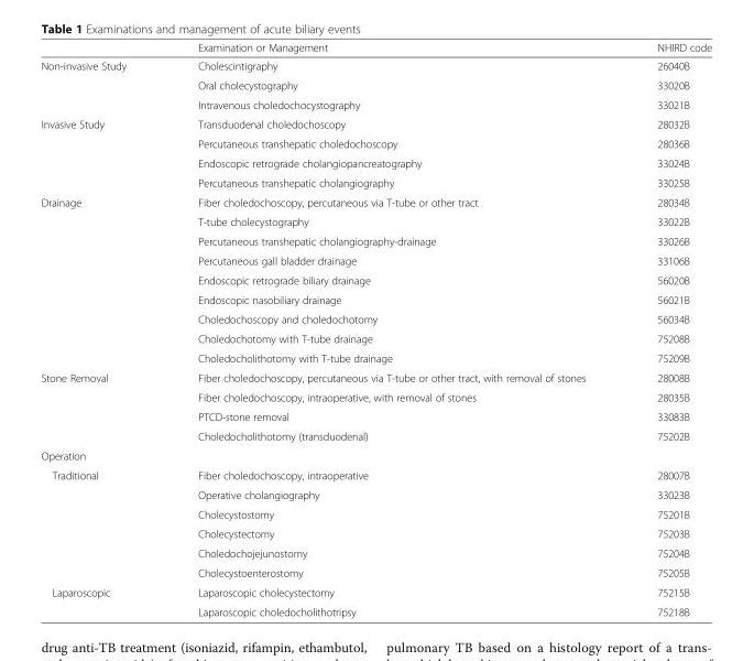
<table><thead><tr><td></td><td>Examination or Management</td><td>NHIRD code</td></tr></thead><tbody><tr><td rowspan="3">Non-invasive Study</td><td>Cholescintigraphy</td><td>26040B</td></tr><tr><td>Oral cholecystography</td><td>33020B</td></tr><tr><td>Intravenous choledochocystography</td><td>33021B</td></tr><tr><td rowspan="4">Invasive Study</td><td>Transduodenal choledochoscopy</td><td>28032B</td></tr><tr><td>Percutaneous transhepatic choledochoscopy</td><td>28036B</td></tr><tr><td>Endoscopic retrograde cholangiopancreatography</td><td>33024B</td></tr><tr><td>Percutaneous transhepatic cholangiography</td><td>33025B</td></tr><tr><td rowspan="9">Drainage</td><td>Fiber choledochoscopy, percutaneous via T-tube or other tract</td><td>28034B</td></tr><tr><td>T-tube cholecystography</td><td>33022B</td></tr><tr><td>Percutaneous transhepatic cholangiography-drainage</td><td>33026B</td></tr><tr><td>Percutaneous gall bladder drainage</td><td>33106B</td></tr><tr><td>Endoscopic retrograde biliary drainage</td><td>56020B</td></tr><tr><td>Endoscopic nasobiliary drainage</td><td>56021B</td></tr><tr><td>Choledochoscopy and choledochotomy</td><td>56034B</td></tr><tr><td>Choledochotomy with T-tube drainage</td><td>75208B</td></tr><tr><td>Choledocholithotomy with T-tube drainage</td><td>75209B</td></tr><tr><td rowspan="4">Stone Removal</td><td>Fiber choledochoscopy, percutaneous via T-tube or other tract, with removal of stones</td><td>28008B</td></tr><tr><td>Fiber choledochoscopy, intraoperative, with removal of stones</td><td>28035B</td></tr><tr><td>PTCD-stone removal</td><td>33083B</td></tr><tr><td>Choledocholithotomy (transduodenal)</td><td>75202B</td></tr><tr><td colspan="3">Operation</td></tr><tr><td rowspan="6">Traditional</td><td>Fiber choledochoscopy, intraoperative</td><td>28007B</td></tr><tr><td>Operative cholangiography</td><td>33023B</td></tr><tr><td>Cholecystostomy</td><td>75201B</td></tr><tr><td>Cholecystectomy</td><td>75203B</td></tr><tr><td>Choledochojejunostomy</td><td>75204B</td></tr><tr><td>Cholecystoenterostomy</td><td>75205B</td></tr><tr><td rowspan="2">Laparoscopic</td><td>Laparoscopic cholecystectomy</td><td>75215B</td></tr><tr><td>Laparoscopic choledocholithotripsy</td><td>75218B</td></tr></tbody></table>